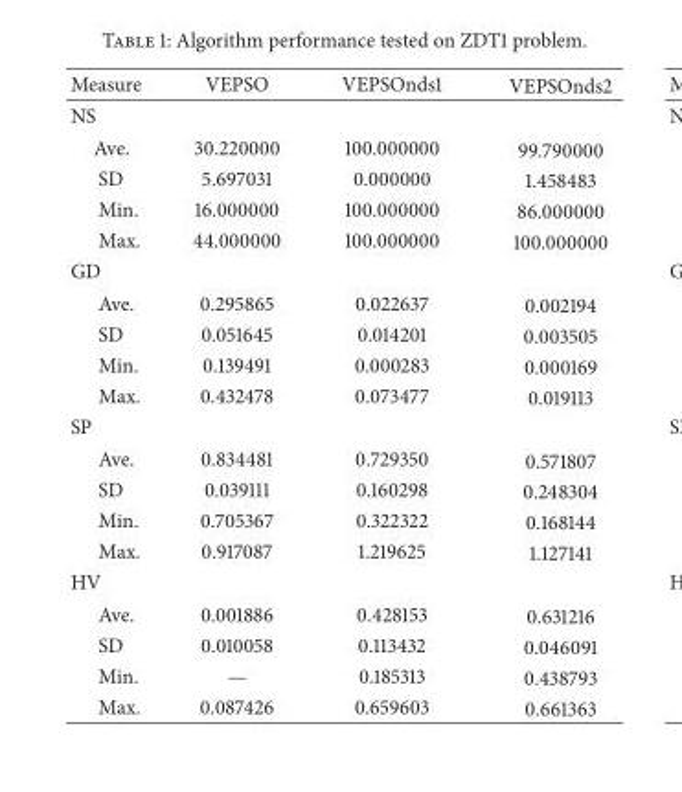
<table><thead><tr><td>Measure</td><td>VEPSO</td><td>VEPSOnds1</td><td>VEPSOnds2</td></tr></thead><tbody><tr><td colspan="4">NS</td></tr><tr><td>Ave.</td><td>30.220000</td><td>100.000000</td><td>99.790000</td></tr><tr><td>SD</td><td>5.697031</td><td>0.000000</td><td>1.458483</td></tr><tr><td>Min.</td><td>16.000000</td><td>100.000000</td><td>86.000000</td></tr><tr><td>Max.</td><td>44.000000</td><td>100.000000</td><td>100.000000</td></tr><tr><td colspan="4">GD</td></tr><tr><td>Ave.</td><td>0.295865</td><td>0.022637</td><td>0.002194</td></tr><tr><td>SD</td><td>0.051645</td><td>0.014201</td><td>0.003505</td></tr><tr><td>Min.</td><td>0.139491</td><td>0.000283</td><td>0.000169</td></tr><tr><td>Max.</td><td>0.432478</td><td>0.073477</td><td>0.019113</td></tr><tr><td colspan="4">SP</td></tr><tr><td>Ave.</td><td>0.834481</td><td>0.729350</td><td>0.571807</td></tr><tr><td>SD</td><td>0.039111</td><td>0.160298</td><td>0.248304</td></tr><tr><td>Min.</td><td>0.705367</td><td>0.322322</td><td>0.168144</td></tr><tr><td>Max.</td><td>0.917087</td><td>1.219625</td><td>1.127141</td></tr><tr><td colspan="4">HV</td></tr><tr><td>Ave.</td><td>0.001886</td><td>0.428153</td><td>0.631216</td></tr><tr><td>SD</td><td>0.010058</td><td>0.113432</td><td>0.046091</td></tr><tr><td>Min.</td><td>—</td><td>0.185313</td><td>0.438793</td></tr><tr><td>Max.</td><td>0.087426</td><td>0.659603</td><td>0.661363</td></tr></tbody></table>